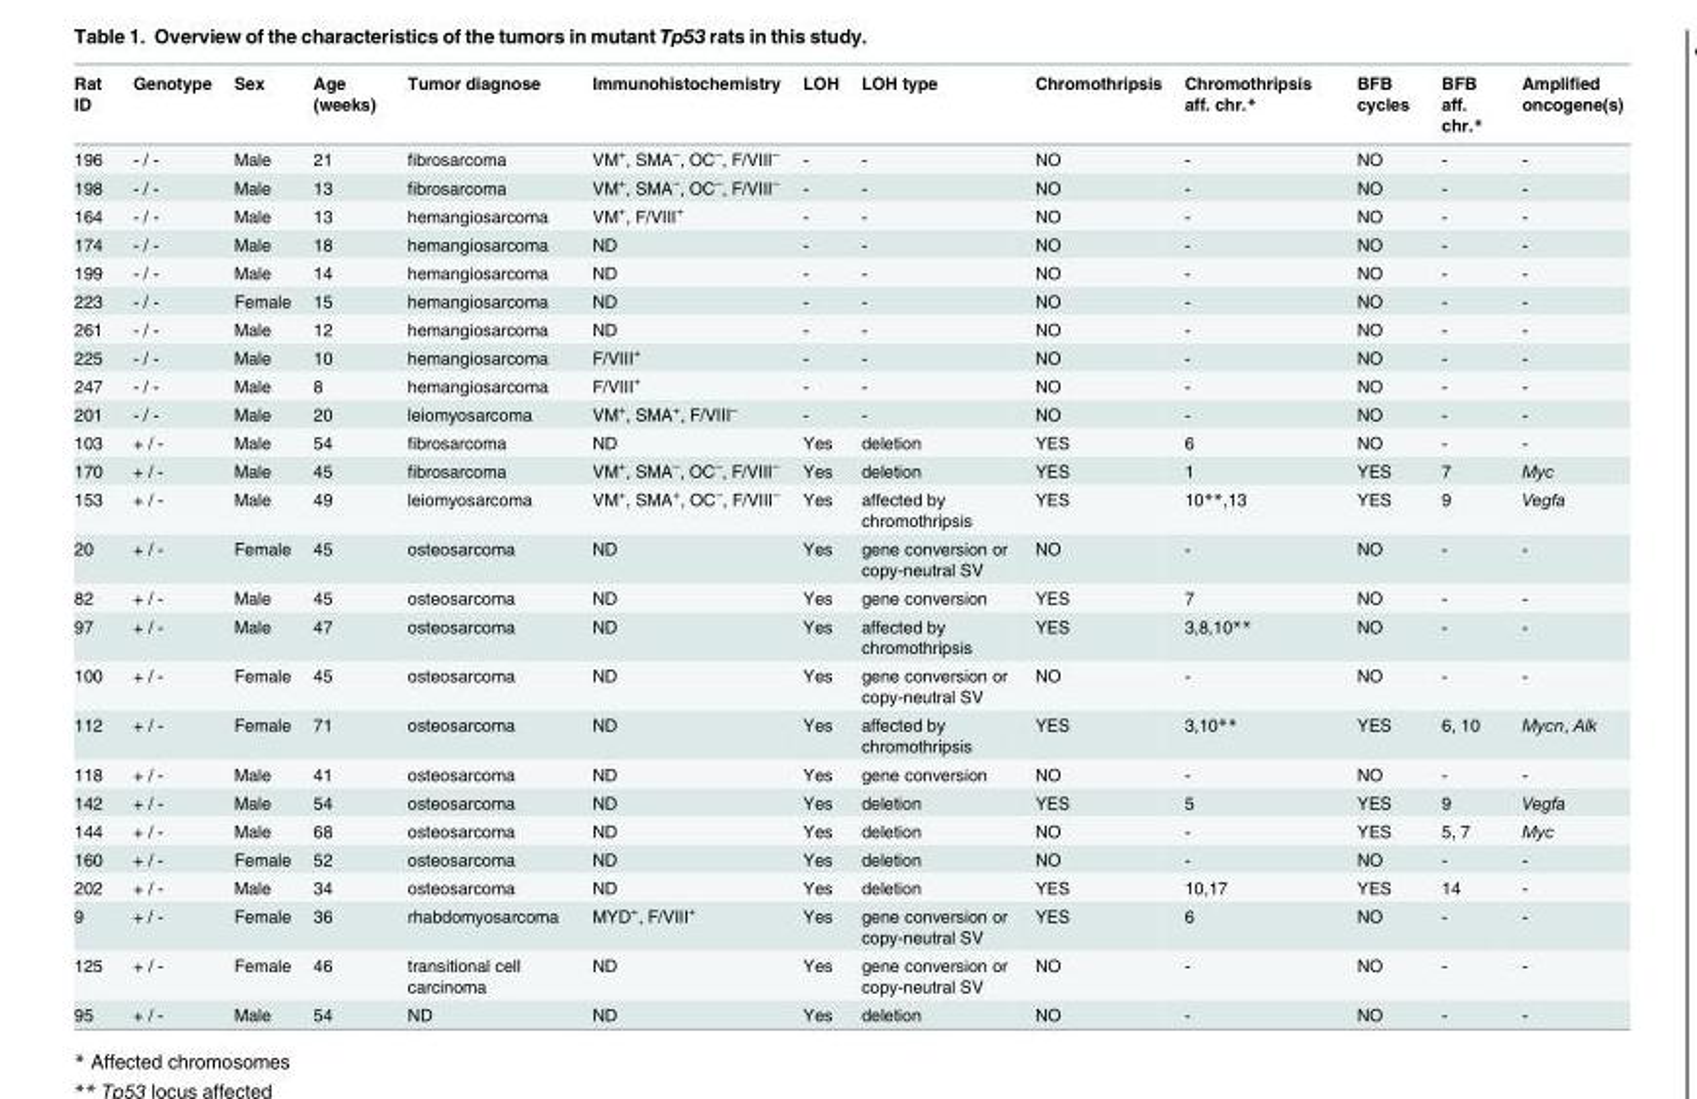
<table><thead><tr><td>Rat ID</td><td>Genotype</td><td>Sex</td><td>Age (weeks)</td><td>Tumor diagnose</td><td>Immunohistochemistry</td><td>LOH</td><td>LOH type</td><td>Chromothripsis</td><td>Chromothripsis aff. chr.*</td><td>BFB cycles</td><td>BFB aff. chr.*</td><td>Amplified oncogene(s)</td></tr></thead><tbody><tr><td>196</td><td>- / -</td><td>Male</td><td>21</td><td>fibrosarcoma</td><td>VM<sup>+</sup>, SMA<sup>–</sup>, OC<sup>–</sup>, F/VIII<sup>–</sup></td><td>-</td><td>-</td><td>NO</td><td>-</td><td>NO</td><td>-</td><td>-</td></tr><tr><td>198</td><td>- / -</td><td>Male</td><td>13</td><td>fibrosarcoma</td><td>VM<sup>+</sup>, SMA<sup>–</sup>, OC<sup>–</sup>, F/VIII<sup>–</sup></td><td>-</td><td>-</td><td>NO</td><td>-</td><td>NO</td><td>-</td><td>-</td></tr><tr><td>164</td><td>- / -</td><td>Male</td><td>13</td><td>hemangiosarcoma</td><td>VM<sup>+</sup>, F/VIII<sup>+</sup></td><td>-</td><td>-</td><td>NO</td><td>-</td><td>NO</td><td>-</td><td>-</td></tr><tr><td>174</td><td>- / -</td><td>Male</td><td>18</td><td>hemangiosarcoma</td><td>ND</td><td>-</td><td>-</td><td>NO</td><td>-</td><td>NO</td><td>-</td><td>-</td></tr><tr><td>199</td><td>- / -</td><td>Male</td><td>14</td><td>hemangiosarcoma</td><td>ND</td><td>-</td><td>-</td><td>NO</td><td>-</td><td>NO</td><td>-</td><td>-</td></tr><tr><td>223</td><td>- / -</td><td>Female</td><td>15</td><td>hemangiosarcoma</td><td>ND</td><td>-</td><td>-</td><td>NO</td><td>-</td><td>NO</td><td>-</td><td>-</td></tr><tr><td>261</td><td>- / -</td><td>Male</td><td>12</td><td>hemangiosarcoma</td><td>ND</td><td>-</td><td>-</td><td>NO</td><td>-</td><td>NO</td><td>-</td><td>-</td></tr><tr><td>225</td><td>- / -</td><td>Male</td><td>10</td><td>hemangiosarcoma</td><td>F/VIII<sup>+</sup></td><td>-</td><td>-</td><td>NO</td><td>-</td><td>NO</td><td>-</td><td>-</td></tr><tr><td>247</td><td>- / -</td><td>Male</td><td>8</td><td>hemangiosarcoma</td><td>F/VIII<sup>+</sup></td><td>-</td><td>-</td><td>NO</td><td>-</td><td>NO</td><td>-</td><td>-</td></tr><tr><td>201</td><td>- / -</td><td>Male</td><td>20</td><td>leiomyosarcoma</td><td>VM<sup>+</sup>, SMA<sup>+</sup>, F/VIII<sup>–</sup></td><td>-</td><td>-</td><td>NO</td><td>-</td><td>NO</td><td>-</td><td>-</td></tr><tr><td>103</td><td>+ / -</td><td>Male</td><td>54</td><td>fibrosarcoma</td><td>ND</td><td>Yes</td><td>deletion</td><td>YES</td><td>6</td><td>NO</td><td>-</td><td>-</td></tr><tr><td>170</td><td>+ / -</td><td>Male</td><td>45</td><td>fibrosarcoma</td><td>VM<sup>+</sup>, SMA<sup>–</sup>, OC<sup>–</sup>, F/VIII<sup>–</sup></td><td>Yes</td><td>deletion</td><td>YES</td><td>1</td><td>YES</td><td>7</td><td>Myc</td></tr><tr><td>153</td><td>+ / -</td><td>Male</td><td>49</td><td>leiomyosarcoma</td><td>VM<sup>+</sup>, SMA<sup>+</sup>, OC<sup>–</sup>, F/VIII<sup>–</sup></td><td>Yes</td><td>affected by chromothripsis</td><td>YES</td><td>10**,13</td><td>YES</td><td>9</td><td>Vegfa</td></tr><tr><td>20</td><td>+ / -</td><td>Female</td><td>45</td><td>osteosarcoma</td><td>ND</td><td>Yes</td><td>gene conversion or copy-neutral SV</td><td>NO</td><td>-</td><td>NO</td><td>-</td><td>-</td></tr><tr><td>82</td><td>+ / -</td><td>Male</td><td>45</td><td>osteosarcoma</td><td>ND</td><td>Yes</td><td>gene conversion</td><td>YES</td><td>7</td><td>NO</td><td>-</td><td>-</td></tr><tr><td>97</td><td>+ / -</td><td>Male</td><td>47</td><td>osteosarcoma</td><td>ND</td><td>Yes</td><td>affected by chromothripsis</td><td>YES</td><td>3,8,10**</td><td>NO</td><td>-</td><td>-</td></tr><tr><td>100</td><td>+ / -</td><td>Female</td><td>45</td><td>osteosarcoma</td><td>ND</td><td>Yes</td><td>gene conversion or copy-neutral SV</td><td>NO</td><td>-</td><td>NO</td><td>-</td><td>-</td></tr><tr><td>112</td><td>+ / -</td><td>Female</td><td>71</td><td>osteosarcoma</td><td>ND</td><td>Yes</td><td>affected by chromothripsis</td><td>YES</td><td>3,10**</td><td>YES</td><td>6, 10</td><td>Mycn, Alk</td></tr><tr><td>118</td><td>+ / -</td><td>Male</td><td>41</td><td>osteosarcoma</td><td>ND</td><td>Yes</td><td>gene conversion</td><td>NO</td><td>-</td><td>NO</td><td>-</td><td>-</td></tr><tr><td>142</td><td>+ / -</td><td>Male</td><td>54</td><td>osteosarcoma</td><td>ND</td><td>Yes</td><td>deletion</td><td>YES</td><td>5</td><td>YES</td><td>9</td><td>Vegfa</td></tr><tr><td>144</td><td>+ / -</td><td>Male</td><td>68</td><td>osteosarcoma</td><td>ND</td><td>Yes</td><td>deletion</td><td>NO</td><td>-</td><td>YES</td><td>5, 7</td><td>Myc</td></tr><tr><td>160</td><td>+ / -</td><td>Female</td><td>52</td><td>osteosarcoma</td><td>ND</td><td>Yes</td><td>deletion</td><td>NO</td><td>-</td><td>NO</td><td>-</td><td>-</td></tr><tr><td>202</td><td>+ / -</td><td>Male</td><td>34</td><td>osteosarcoma</td><td>ND</td><td>Yes</td><td>deletion</td><td>YES</td><td>10,17</td><td>YES</td><td>14</td><td>-</td></tr><tr><td>9</td><td>+ / -</td><td>Female</td><td>36</td><td>rhabdomyosarcoma</td><td>MYD<sup>+</sup>, F/VIII<sup>+</sup></td><td>Yes</td><td>gene conversion or copy-neutral SV</td><td>YES</td><td>6</td><td>NO</td><td>-</td><td>-</td></tr><tr><td>125</td><td>+ / -</td><td>Female</td><td>46</td><td>transitional cell carcinoma</td><td>ND</td><td>Yes</td><td>gene conversion or copy-neutral SV</td><td>NO</td><td>-</td><td>NO</td><td>-</td><td>-</td></tr><tr><td>95</td><td>+ / -</td><td>Male</td><td>54</td><td>ND</td><td>ND</td><td>Yes</td><td>deletion</td><td>NO</td><td>-</td><td>NO</td><td>-</td><td>-</td></tr></tbody></table>